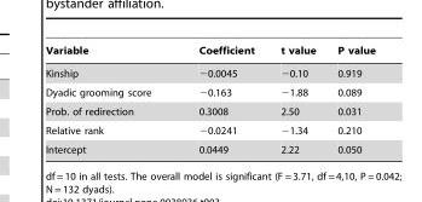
<table><thead><tr><td>Variable</td><td>Coefficient</td><td>t value</td><td>P value</td></tr></thead><tbody><tr><td>Kinship</td><td>−0.0045</td><td>−0.10</td><td>0.919</td></tr><tr><td>Dyadic grooming score</td><td>−0.163</td><td>−1.88</td><td>0.089</td></tr><tr><td>Prob. of redirection</td><td>0.3008</td><td>2.50</td><td>0.031</td></tr><tr><td>Relative rank</td><td>−0.0241</td><td>−1.34</td><td>0.210</td></tr><tr><td>Intercept</td><td>0.0449</td><td>2.22</td><td>0.050</td></tr></tbody></table>